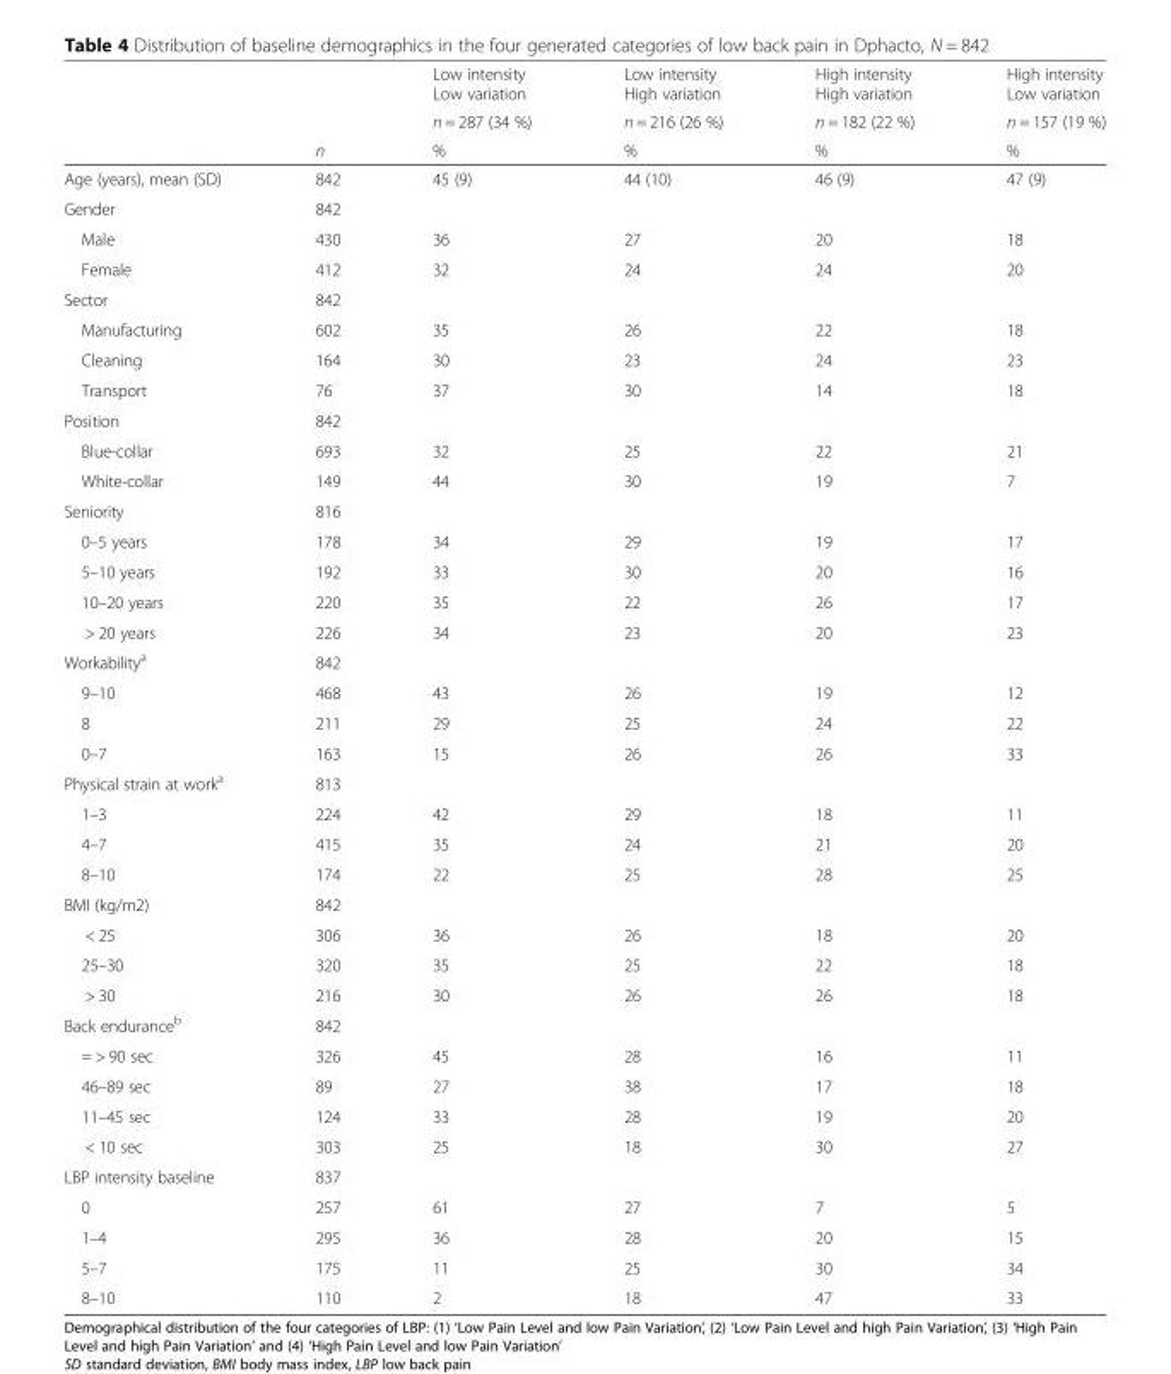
<table><thead><tr><td rowspan="3"></td><td rowspan="3">n</td><td rowspan="3">Low intensity Low variation n = 287 (34 %) %</td><td rowspan="3">Low intensity High variation n = 216 (26 %) %</td><td rowspan="3">High intensity High variation n = 182 (22 %) %</td><td rowspan="3">High intensity Low variation n = 157 (19 %) %</td></tr><tr></tr><tr></tr></thead><tbody><tr><td>Age (years), mean (SD)</td><td>842</td><td>45 (9)</td><td>44 (10)</td><td>46 (9)</td><td>47 (9)</td></tr><tr><td>Gender</td><td>842</td><td></td><td></td><td></td><td></td></tr><tr><td>Male</td><td>430</td><td>36</td><td>27</td><td>20</td><td>18</td></tr><tr><td>Female</td><td>412</td><td>32</td><td>24</td><td>24</td><td>20</td></tr><tr><td>Sector</td><td>842</td><td></td><td></td><td></td><td></td></tr><tr><td>Manufacturing</td><td>602</td><td>35</td><td>26</td><td>22</td><td>18</td></tr><tr><td>Cleaning</td><td>164</td><td>30</td><td>23</td><td>24</td><td>23</td></tr><tr><td>Transport</td><td>76</td><td>37</td><td>30</td><td>14</td><td>18</td></tr><tr><td>Position</td><td>842</td><td></td><td></td><td></td><td></td></tr><tr><td>Blue-collar</td><td>693</td><td>32</td><td>25</td><td>22</td><td>21</td></tr><tr><td>White-collar</td><td>149</td><td>44</td><td>30</td><td>19</td><td>7</td></tr><tr><td>Seniority</td><td>816</td><td></td><td></td><td></td><td></td></tr><tr><td>0–5 years</td><td>178</td><td>34</td><td>29</td><td>19</td><td>17</td></tr><tr><td>5–10 years</td><td>192</td><td>33</td><td>30</td><td>20</td><td>16</td></tr><tr><td>10–20 years</td><td>220</td><td>35</td><td>22</td><td>26</td><td>17</td></tr><tr><td>&gt; 20 years</td><td>226</td><td>34</td><td>23</td><td>20</td><td>23</td></tr><tr><td>Workability<sup>a</sup></td><td>842</td><td></td><td></td><td></td><td></td></tr><tr><td>9–10</td><td>468</td><td>43</td><td>26</td><td>19</td><td>12</td></tr><tr><td>8</td><td>211</td><td>29</td><td>25</td><td>24</td><td>22</td></tr><tr><td>0–7</td><td>163</td><td>15</td><td>26</td><td>26</td><td>33</td></tr><tr><td>Physical strain at work<sup>a</sup></td><td>813</td><td></td><td></td><td></td><td></td></tr><tr><td>1–3</td><td>224</td><td>42</td><td>29</td><td>18</td><td>11</td></tr><tr><td>4–7</td><td>415</td><td>35</td><td>24</td><td>21</td><td>20</td></tr><tr><td>8–10</td><td>174</td><td>22</td><td>25</td><td>28</td><td>25</td></tr><tr><td>BMI (kg/m2)</td><td>842</td><td></td><td></td><td></td><td></td></tr><tr><td>&lt; 25</td><td>306</td><td>36</td><td>26</td><td>18</td><td>20</td></tr><tr><td>25–30</td><td>320</td><td>35</td><td>25</td><td>22</td><td>18</td></tr><tr><td>&gt; 30</td><td>216</td><td>30</td><td>26</td><td>26</td><td>18</td></tr><tr><td>Back endurance<sup>b</sup></td><td>842</td><td></td><td></td><td></td><td></td></tr><tr><td>= &gt; 90 sec</td><td>326</td><td>45</td><td>28</td><td>16</td><td>11</td></tr><tr><td>46–89 sec</td><td>89</td><td>27</td><td>38</td><td>17</td><td>18</td></tr><tr><td>11–45 sec</td><td>124</td><td>33</td><td>28</td><td>19</td><td>20</td></tr><tr><td>&lt; 10 sec</td><td>303</td><td>25</td><td>18</td><td>30</td><td>27</td></tr><tr><td>LBP intensity baseline</td><td>837</td><td></td><td></td><td></td><td></td></tr><tr><td>0</td><td>257</td><td>61</td><td>27</td><td>7</td><td>5</td></tr><tr><td>1–4</td><td>295</td><td>36</td><td>28</td><td>20</td><td>15</td></tr><tr><td>5–7</td><td>175</td><td>11</td><td>25</td><td>30</td><td>34</td></tr><tr><td>8–10</td><td>110</td><td>2</td><td>18</td><td>47</td><td>33</td></tr></tbody></table>